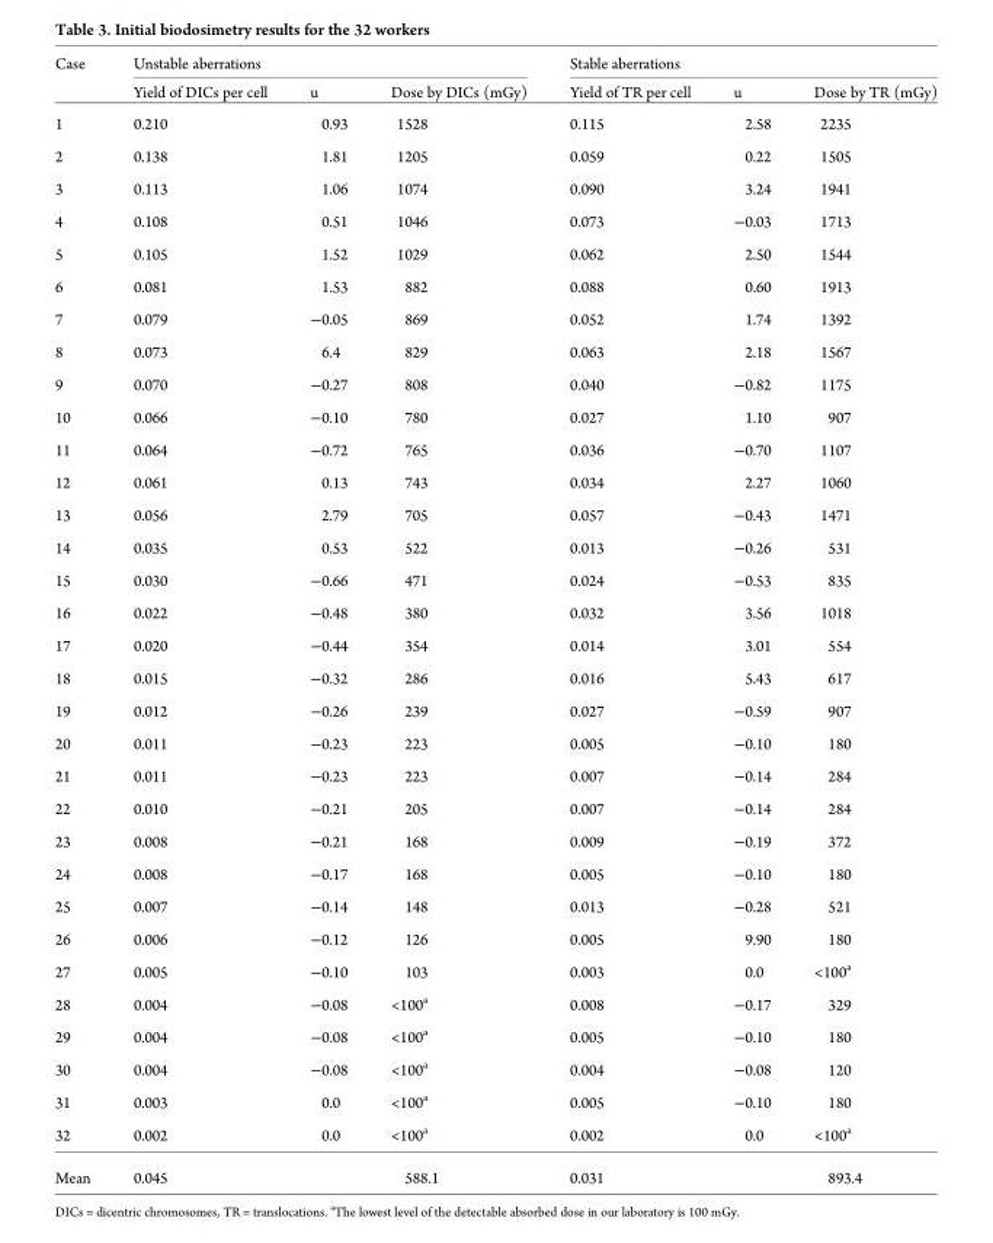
<table><thead><tr><td rowspan="2">Case</td><td colspan="3">Unstable aberrations</td><td colspan="3">Stable aberrations</td></tr><tr><td>Yield of DICs per cell</td><td>u</td><td>Dose by DICs (mGy)</td><td>Yield of TR per cell</td><td>u</td><td>Dose by TR (mGy)</td></tr></thead><tbody><tr><td>1</td><td>0.210</td><td>0.93</td><td>1528</td><td>0.115</td><td>2.58</td><td>2235</td></tr><tr><td>2</td><td>0.138</td><td>1.81</td><td>1205</td><td>0.059</td><td>0.22</td><td>1505</td></tr><tr><td>3</td><td>0.113</td><td>1.06</td><td>1074</td><td>0.090</td><td>3.24</td><td>1941</td></tr><tr><td>4</td><td>0.108</td><td>0.51</td><td>1046</td><td>0.073</td><td>−0.03</td><td>1713</td></tr><tr><td>5</td><td>0.105</td><td>1.52</td><td>1029</td><td>0.062</td><td>2.50</td><td>1544</td></tr><tr><td>6</td><td>0.081</td><td>1.53</td><td>882</td><td>0.088</td><td>0.60</td><td>1913</td></tr><tr><td>7</td><td>0.079</td><td>−0.05</td><td>869</td><td>0.052</td><td>1.74</td><td>1392</td></tr><tr><td>8</td><td>0.073</td><td>6.4</td><td>829</td><td>0.063</td><td>2.18</td><td>1567</td></tr><tr><td>9</td><td>0.070</td><td>−0.27</td><td>808</td><td>0.040</td><td>−0.82</td><td>1175</td></tr><tr><td>10</td><td>0.066</td><td>−0.10</td><td>780</td><td>0.027</td><td>1.10</td><td>907</td></tr><tr><td>11</td><td>0.064</td><td>−0.72</td><td>765</td><td>0.036</td><td>−0.70</td><td>1107</td></tr><tr><td>12</td><td>0.061</td><td>0.13</td><td>743</td><td>0.034</td><td>2.27</td><td>1060</td></tr><tr><td>13</td><td>0.056</td><td>2.79</td><td>705</td><td>0.057</td><td>−0.43</td><td>1471</td></tr><tr><td>14</td><td>0.035</td><td>0.53</td><td>522</td><td>0.013</td><td>−0.26</td><td>531</td></tr><tr><td>15</td><td>0.030</td><td>−0.66</td><td>471</td><td>0.024</td><td>−0.53</td><td>835</td></tr><tr><td>16</td><td>0.022</td><td>−0.48</td><td>380</td><td>0.032</td><td>3.56</td><td>1018</td></tr><tr><td>17</td><td>0.020</td><td>−0.44</td><td>354</td><td>0.014</td><td>3.01</td><td>554</td></tr><tr><td>18</td><td>0.015</td><td>−0.32</td><td>286</td><td>0.016</td><td>5.43</td><td>617</td></tr><tr><td>19</td><td>0.012</td><td>−0.26</td><td>239</td><td>0.027</td><td>−0.59</td><td>907</td></tr><tr><td>20</td><td>0.011</td><td>−0.23</td><td>223</td><td>0.005</td><td>−0.10</td><td>180</td></tr><tr><td>21</td><td>0.011</td><td>−0.23</td><td>223</td><td>0.007</td><td>−0.14</td><td>284</td></tr><tr><td>22</td><td>0.010</td><td>−0.21</td><td>205</td><td>0.007</td><td>−0.14</td><td>284</td></tr><tr><td>23</td><td>0.008</td><td>−0.21</td><td>168</td><td>0.009</td><td>−0.19</td><td>372</td></tr><tr><td>24</td><td>0.008</td><td>−0.17</td><td>168</td><td>0.005</td><td>−0.10</td><td>180</td></tr><tr><td>25</td><td>0.007</td><td>−0.14</td><td>148</td><td>0.013</td><td>−0.28</td><td>521</td></tr><tr><td>26</td><td>0.006</td><td>−0.12</td><td>126</td><td>0.005</td><td>9.90</td><td>180</td></tr><tr><td>27</td><td>0.005</td><td>−0.10</td><td>103</td><td>0.003</td><td>0.0</td><td>&lt;100<sup>a</sup></td></tr><tr><td>28</td><td>0.004</td><td>−0.08</td><td>&lt;100<sup>a</sup></td><td>0.008</td><td>−0.17</td><td>329</td></tr><tr><td>29</td><td>0.004</td><td>−0.08</td><td>&lt;100<sup>a</sup></td><td>0.005</td><td>−0.10</td><td>180</td></tr><tr><td>30</td><td>0.004</td><td>−0.08</td><td>&lt;100<sup>a</sup></td><td>0.004</td><td>−0.08</td><td>120</td></tr><tr><td>31</td><td>0.003</td><td>0.0</td><td>&lt;100<sup>a</sup></td><td>0.005</td><td>−0.10</td><td>180</td></tr><tr><td>32</td><td>0.002</td><td>0.0</td><td>&lt;100<sup>a</sup></td><td>0.002</td><td>0.0</td><td>&lt;100<sup>a</sup></td></tr><tr><td>Mean</td><td>0.045</td><td></td><td>588.1</td><td>0.031</td><td></td><td>893.4</td></tr></tbody></table>